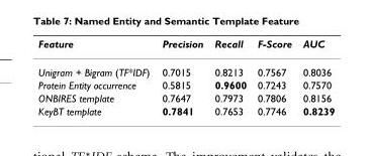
<table><thead><tr><td>Feature</td><td>Precision</td><td>Recall</td><td>F-Score</td><td>AUC</td></tr></thead><tbody><tr><td>Unigram + Bigram (TF*IDF)</td><td>0.7015</td><td>0.8213</td><td>0.7567</td><td>0.8036</td></tr><tr><td>Protein Entity occurrence</td><td>0.5815</td><td>0.9600</td><td>0.7243</td><td>0.7570</td></tr><tr><td>ONBIRES template</td><td>0.7647</td><td>0.7973</td><td>0.7806</td><td>0.8156</td></tr><tr><td>KeyBT template</td><td>0.7841</td><td>0.7653</td><td>0.7746</td><td>0.8239</td></tr></tbody></table>